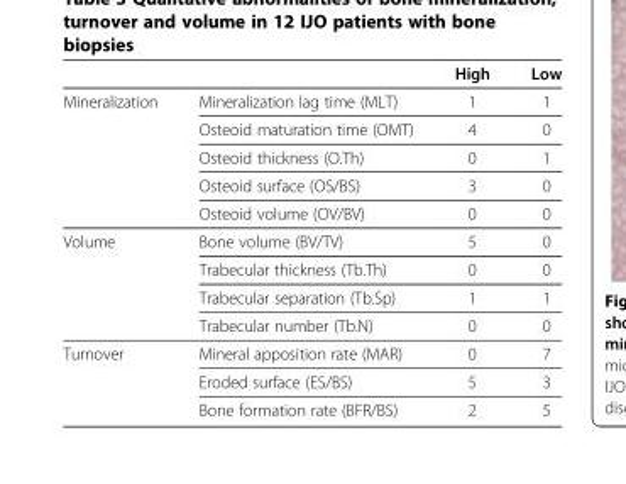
<table><thead><tr><td></td><td></td><td>High</td><td>Low</td></tr></thead><tbody><tr><td rowspan="5">Mineralization</td><td>Mineralization lag time (MLT)</td><td>1</td><td>1</td></tr><tr><td>Osteoid maturation time (OMT)</td><td>4</td><td>0</td></tr><tr><td>Osteoid thickness (O.Th)</td><td>0</td><td>1</td></tr><tr><td>Osteoid surface (OS/BS)</td><td>3</td><td>0</td></tr><tr><td>Osteoid volume (OV/BV)</td><td>0</td><td>0</td></tr><tr><td rowspan="4">Volume</td><td>Bone volume (BV/TV)</td><td>5</td><td>0</td></tr><tr><td>Trabecular thickness (Tb.Th)</td><td>0</td><td>0</td></tr><tr><td>Trabecular separation (Tb.Sp)</td><td>1</td><td>1</td></tr><tr><td>Trabecular number (Tb.N)</td><td>0</td><td>0</td></tr><tr><td rowspan="3">Turnover</td><td>Mineral apposition rate (MAR)</td><td>0</td><td>7</td></tr><tr><td>Eroded surface (ES/BS)</td><td>5</td><td>3</td></tr><tr><td>Bone formation rate (BFR/BS)</td><td>2</td><td>5</td></tr></tbody></table>